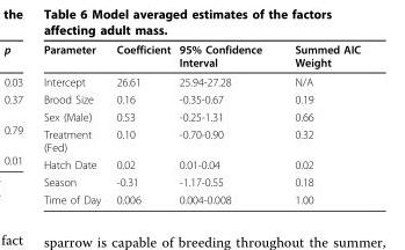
<table><thead><tr><td>Parameter</td><td>Coefficient</td><td>95% Confidence Interval</td><td>Summed AIC Weight</td></tr></thead><tbody><tr><td>Intercept</td><td>26.61</td><td>25.94-27.28</td><td>N/A</td></tr><tr><td>Brood Size</td><td>0.16</td><td>-0.35-0.67</td><td>0.19</td></tr><tr><td>Sex (Male)</td><td>0.53</td><td>-0.25-1.31</td><td>0.66</td></tr><tr><td>Treatment (Fed)</td><td>0.10</td><td>-0.70-0.90</td><td>0.32</td></tr><tr><td>Hatch Date</td><td>0.02</td><td>0.01-0.04</td><td>0.02</td></tr><tr><td>Season</td><td>-0.31</td><td>-1.17-0.55</td><td>0.18</td></tr><tr><td>Time of Day</td><td>0.006</td><td>0.004-0.008</td><td>1.00</td></tr></tbody></table>